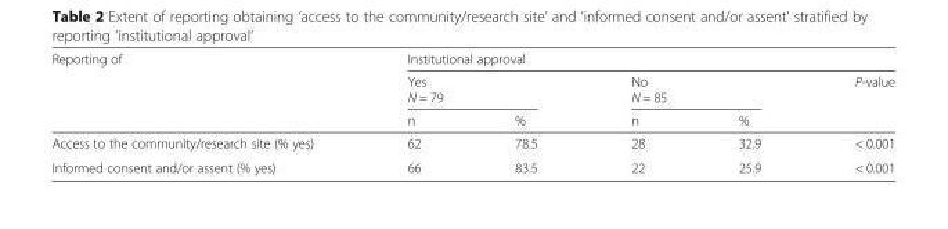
<table><thead><tr><td rowspan="3">Reporting of</td><td colspan="5">Institutional approval</td></tr><tr><td colspan="2">Yes N = 79</td><td colspan="2">No N = 85</td><td rowspan="2">P-value</td></tr><tr><td>n</td><td>%</td><td>n</td><td>%</td></tr></thead><tbody><tr><td>Access to the community/research site (% yes)</td><td>62</td><td>78.5</td><td>28</td><td>32.9</td><td>&lt; 0.001</td></tr><tr><td>Informed consent and/or assent (% yes)</td><td>66</td><td>83.5</td><td>22</td><td>25.9</td><td>&lt; 0.001</td></tr></tbody></table>